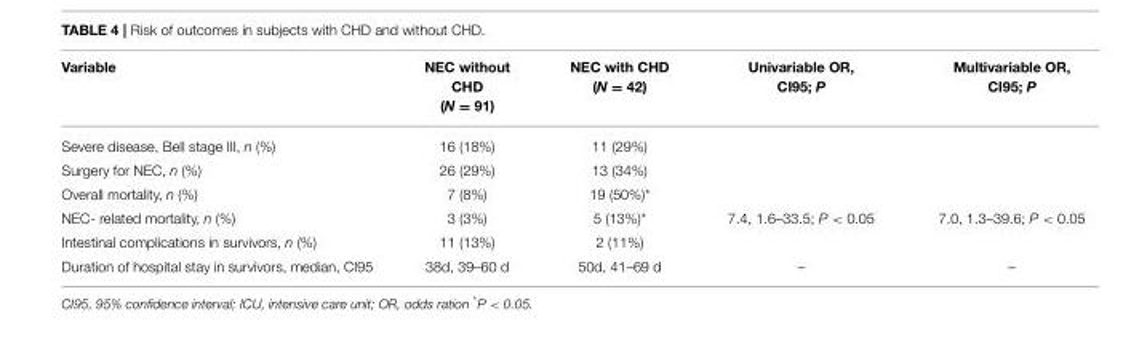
<table><thead><tr><td>Variable</td><td>NEC without CHD (N = 91)</td><td>NEC with CHD (N = 42)</td><td>Univariable OR, CI95; P</td><td>Multivariable OR, CI95; P</td></tr></thead><tbody><tr><td>Severe disease, Bell stage III, n (%)</td><td>16 (18%)</td><td>11 (29%)</td><td></td><td></td></tr><tr><td>Surgery for NEC, n (%)</td><td>26 (29%)</td><td>13 (34%)</td><td></td><td></td></tr><tr><td>Overall mortality, n (%)</td><td>7 (8%)</td><td>19 (50%)*</td><td></td><td></td></tr><tr><td>NEC- related mortality, n (%)</td><td>3 (3%)</td><td>5 (13%)*</td><td>7.4, 1.6–33.5; P &lt; 0.05</td><td>7.0, 1.3–39.6; P &lt; 0.05</td></tr><tr><td>Intestinal complications in survivors, n (%)</td><td>11 (13%)</td><td>2 (11%)</td><td></td><td></td></tr><tr><td>Duration of hospital stay in survivors, median, CI95</td><td>38d, 39–60 d</td><td>50d, 41–69 d</td><td>–</td><td>–</td></tr></tbody></table>